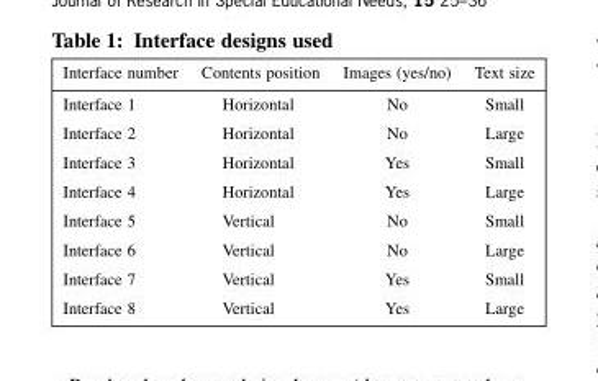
<table><thead><tr><td>Interface number</td><td>Contents position</td><td>Images (yes/no)</td><td>Text size</td></tr></thead><tbody><tr><td>Interface 1</td><td>Horizontal</td><td>No</td><td>Small</td></tr><tr><td>Interface 2</td><td>Horizontal</td><td>No</td><td>Large</td></tr><tr><td>Interface 3</td><td>Horizontal</td><td>Yes</td><td>Small</td></tr><tr><td>Interface 4</td><td>Horizontal</td><td>Yes</td><td>Large</td></tr><tr><td>Interface 5</td><td>Vertical</td><td>No</td><td>Small</td></tr><tr><td>Interface 6</td><td>Vertical</td><td>No</td><td>Large</td></tr><tr><td>Interface 7</td><td>Vertical</td><td>Yes</td><td>Small</td></tr><tr><td>Interface 8</td><td>Vertical</td><td>Yes</td><td>Large</td></tr></tbody></table>